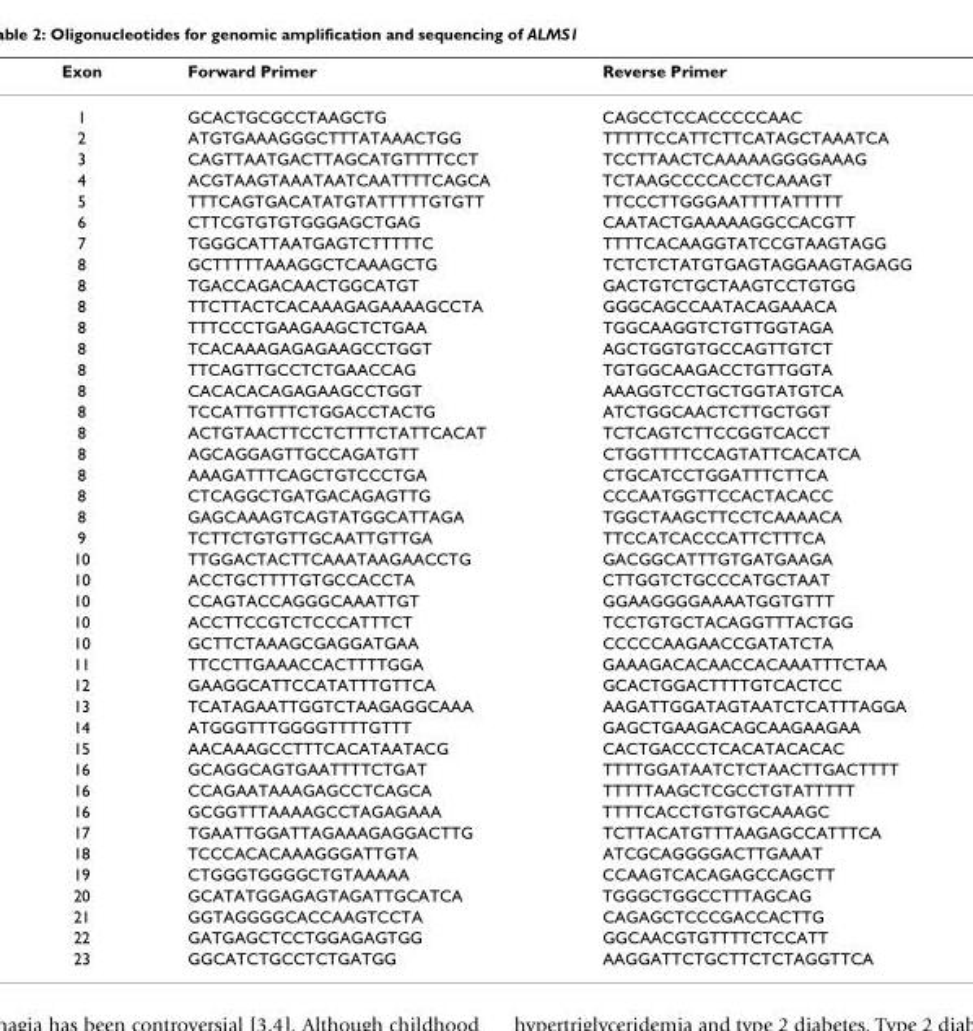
<table><thead><tr><td>Exon</td><td>Forward Primer</td><td>Reverse Primer</td></tr></thead><tbody><tr><td>1</td><td>GCACTGCGCCTAAGCTG</td><td>CAGCCTCCACCCCCAAC</td></tr><tr><td>2</td><td>ATGTGAAAGGGCTTTATAAACTGG</td><td>TTTTTCCATTCTTCATAGCTAAATCA</td></tr><tr><td>3</td><td>CAGTTAATGACTTAGCATGTTTTCCT</td><td>TCCTTAACTCAAAAAGGGGAAAG</td></tr><tr><td>4</td><td>ACGTAAGTAAATAATCAATTTTCAGCA</td><td>TCTAAGCCCCACCTCAAAGT</td></tr><tr><td>5</td><td>TTTCAGTGACATATGTATTTTTGTGTT</td><td>TTCCCTTGGGAATTTTATTTTT</td></tr><tr><td>6</td><td>CTTCGTGTGTGGGAGCTGAG</td><td>CAATACTGAAAAAGGCCACGTT</td></tr><tr><td>7</td><td>TGGGCATTAATGAGTCTTTTTC</td><td>TTTTCACAAGGTATCCGTAAGTAGG</td></tr><tr><td>8</td><td>GCTTTTTAAAGGCTCAAAGCTG</td><td>TCTCTCTATGTGAGTAGGAAGTAGAGG</td></tr><tr><td>8</td><td>TGACCAGACAACTGGCATGT</td><td>GACTGTCTGCTAAGTCCTGTGG</td></tr><tr><td>8</td><td>TTCTTACTCACAAAGAGAAAAGCCTA</td><td>GGGCAGCCAATACAGAAACA</td></tr><tr><td>8</td><td>TTTCCCTGAAGAAGCTCTGAA</td><td>TGGCAAGGTCTGTTGGTAGA</td></tr><tr><td>8</td><td>TCACAAAGAGAGAAGCCTGGT</td><td>AGCTGGTGTGCCAGTTGTCT</td></tr><tr><td>8</td><td>TTCAGTTGCCTCTGAACCAG</td><td>TGTGGCAAGACCTGTTGGTA</td></tr><tr><td>8</td><td>CACACACAGAGAAGCCTGGT</td><td>AAAGGTCCTGCTGGTATGTCA</td></tr><tr><td>8</td><td>TCCATTGTTTCTGGACCTACTG</td><td>ATCTGGCAACTCTTGCTGGT</td></tr><tr><td>8</td><td>ACTGTAACTTCCTCTTTCTATTCACAT</td><td>TCTCAGTCTTCCGGTCACCT</td></tr><tr><td>8</td><td>AGCAGGAGTTGCCAGATGTT</td><td>CTGGTTTTCCAGTATTCACATCA</td></tr><tr><td>8</td><td>AAAGATTTCAGCTGTCCCTGA</td><td>CTGCATCCTGGATTTCTTCA</td></tr><tr><td>8</td><td>CTCAGGCTGATGACAGAGTTG</td><td>CCCAATGGTTCCACTACACC</td></tr><tr><td>8</td><td>GAGCAAAGTCAGTATGGCATTAGA</td><td>TGGCTAAGCTTCCTCAAAACA</td></tr><tr><td>9</td><td>TCTTCTGTGTTGCAATTGTTGA</td><td>TTCCATCACCCATTCTTTCA</td></tr><tr><td>10</td><td>TTGGACTACTTCAAATAAGAACCTG</td><td>GACGGCATTTGTGATGAAGA</td></tr><tr><td>10</td><td>ACCTGCTTTTGTGCCACCTA</td><td>CTTGGTCTGCCCATGCTAAT</td></tr><tr><td>10</td><td>CCAGTACCAGGGCAAATTGT</td><td>GGAAGGGGAAAATGGTGTTT</td></tr><tr><td>10</td><td>ACCTTCCGTCTCCCATTTCT</td><td>TCCTGTGCTACAGGTTTACTGG</td></tr><tr><td>10</td><td>GCTTCTAAAGCGAGGATGAA</td><td>CCCCCAAGAACCGATATCTA</td></tr><tr><td>11</td><td>TTCCTTGAAACCACTTTTGGA</td><td>GAAAGACACAACCACAAATTTCTAA</td></tr><tr><td>12</td><td>GAAGGCATTCCATATTTGTTCA</td><td>GCACTGGACTTTTGTCACTCC</td></tr><tr><td>13</td><td>TCATAGAATTGGTCTAAGAGGCAAA</td><td>AAGATTGGATAGTAATCTCATTTAGGA</td></tr><tr><td>14</td><td>ATGGGTTTGGGGTTTTGTTT</td><td>GAGCTGAAGACAGCAAGAAGAA</td></tr><tr><td>15</td><td>AACAAAGCCTTTCACATAATACG</td><td>CACTGACCCTCACATACACAC</td></tr><tr><td>16</td><td>GCAGGCAGTGAATTTTCTGAT</td><td>TTTTGGATAATCTCTAACTTGACTTTT</td></tr><tr><td>16</td><td>CCAGAATAAAGAGCCTCAGCA</td><td>TTTTTAAGCTCGCCTGTATTTTT</td></tr><tr><td>16</td><td>GCGGTTTAAAAGCCTAGAGAAA</td><td>TTTTCACCTGTGTGCAAAGC</td></tr><tr><td>17</td><td>TGAATTGGATTAGAAAGAGGACTTG</td><td>TCTTACATGTTTAAGAGCCATTTCA</td></tr><tr><td>18</td><td>TCCCACACAAAGGGATTGTA</td><td>ATCGCAGGGGACTTGAAAT</td></tr><tr><td>19</td><td>CTGGGTGGGGCTGTAAAAA</td><td>CCAAGTCACAGAGCCAGCTT</td></tr><tr><td>20</td><td>GCATATGGAGAGTAGATTGCATCA</td><td>TGGGCTGGCCTTTAGCAG</td></tr><tr><td>21</td><td>GGTAGGGGCACCAAGTCCTA</td><td>CAGAGCTCCCGACCACTTG</td></tr><tr><td>22</td><td>GATGAGCTCCTGGAGAGTGG</td><td>GGCAACGTGTTTTCTCCATT</td></tr><tr><td>23</td><td>GGCATCTGCCTCTGATGG</td><td>AAGGATTCTGCTTCTCTAGGTTCA</td></tr></tbody></table>